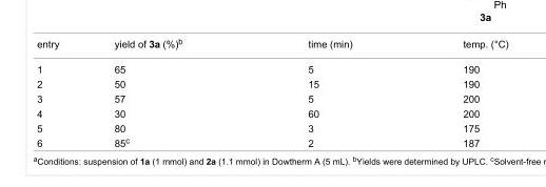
<table><tbody><tr><td>entry</td><td>yield of 3a (%)<sup>b</sup></td><td>time (min)</td><td>temp. (°C)</td></tr><tr><td>1</td><td>65</td><td>5</td><td>190</td></tr><tr><td>2</td><td>50</td><td>15</td><td>190</td></tr><tr><td>3</td><td>57</td><td>5</td><td>200</td></tr><tr><td>4</td><td>30</td><td>60</td><td>200</td></tr><tr><td>5</td><td>80</td><td>3</td><td>175</td></tr><tr><td>6</td><td>85<sup>c</sup></td><td>2</td><td>187</td></tr></tbody></table>